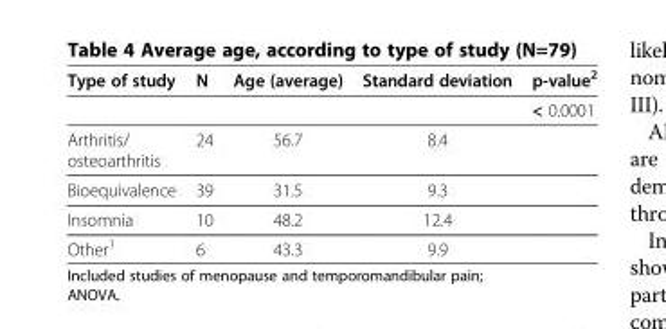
<table><thead><tr><td>Type of study</td><td>N</td><td>Age (average)</td><td>Standard deviation</td><td>p-value<sup>2</sup></td></tr></thead><tbody><tr><td></td><td></td><td></td><td></td><td>&lt; 0.0001</td></tr><tr><td>Arthritis/ osteoarthritis</td><td>24</td><td>56.7</td><td>8.4</td><td></td></tr><tr><td>Bioequivalence</td><td>39</td><td>31.5</td><td>9.3</td><td></td></tr><tr><td>Insomnia</td><td>10</td><td>48.2</td><td>12.4</td><td></td></tr><tr><td>Other<sup>1</sup></td><td>6</td><td>43.3</td><td>9.9</td><td></td></tr></tbody></table>